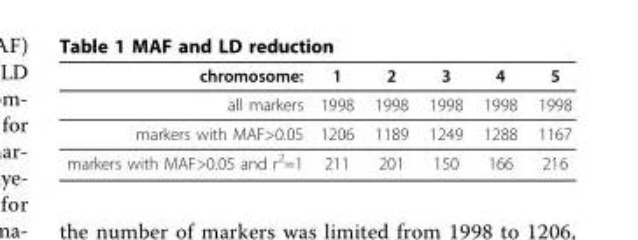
<table><thead><tr><td>chromosome:</td><td>1</td><td>2</td><td>3</td><td>4</td><td>5</td></tr></thead><tbody><tr><td>all markers</td><td>1998</td><td>1998</td><td>1998</td><td>1998</td><td>1998</td></tr><tr><td>markers with MAF&gt;0.05</td><td>1206</td><td>1189</td><td>1249</td><td>1288</td><td>1167</td></tr><tr><td>markers with MAF&gt;0.05 and r<sup>2</sup>=1</td><td>211</td><td>201</td><td>150</td><td>166</td><td>216</td></tr></tbody></table>